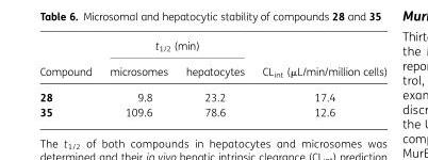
<table><thead><tr><td rowspan="2">Compound</td><td colspan="2">t<sub>1/2</sub> (min)</td><td rowspan="2">CL<sub>int</sub> (µL/min/million cells)</td></tr><tr><td>microsomes</td><td>hepatocytes</td></tr></thead><tbody><tr><td>28</td><td>9.8</td><td>23.2</td><td>17.4</td></tr><tr><td>35</td><td>109.6</td><td>78.6</td><td>12.6</td></tr></tbody></table>